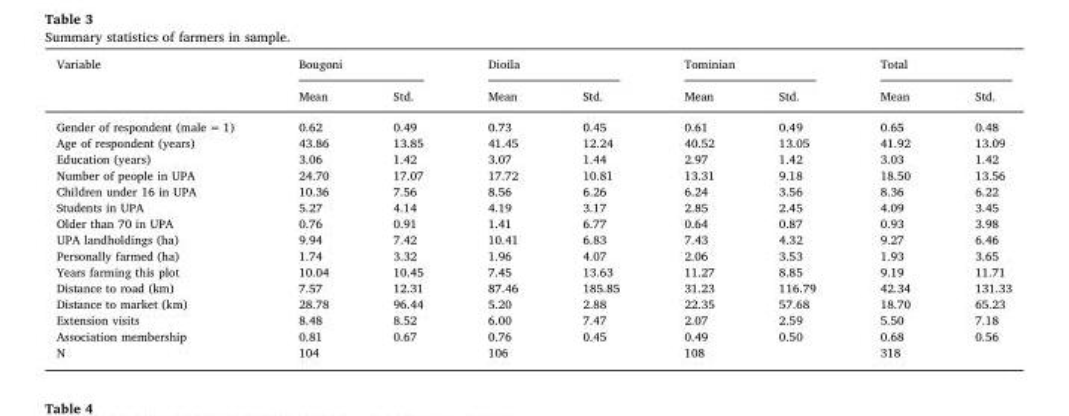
<table><thead><tr><td rowspan="2">Variable</td><td colspan="2">Bougoni</td><td colspan="2">Dioila</td><td colspan="2">Tominian</td><td colspan="2">Total</td></tr><tr><td>Mean</td><td>Std.</td><td>Mean</td><td>Std.</td><td>Mean</td><td>Std.</td><td>Mean</td><td>Std.</td></tr></thead><tbody><tr><td>Gender of respondent (male = 1)</td><td>0.62</td><td>0.49</td><td>0.73</td><td>0.45</td><td>0.61</td><td>0.49</td><td>0.65</td><td>0.48</td></tr><tr><td>Age of respondent (years)</td><td>43.86</td><td>13.85</td><td>41.45</td><td>12.24</td><td>40.52</td><td>13.05</td><td>41.92</td><td>13.09</td></tr><tr><td>Education (years)</td><td>3.06</td><td>1.42</td><td>3.07</td><td>1.44</td><td>2.97</td><td>1.42</td><td>3.03</td><td>1.42</td></tr><tr><td>Number of people in UPA</td><td>24.70</td><td>17.07</td><td>17.72</td><td>10.81</td><td>13.31</td><td>9.18</td><td>18.50</td><td>13.56</td></tr><tr><td>Children under 16 in UPA</td><td>10.36</td><td>7.56</td><td>8.56</td><td>6.26</td><td>6.24</td><td>3.56</td><td>8.36</td><td>6.22</td></tr><tr><td>Students in UPA</td><td>5.27</td><td>4.14</td><td>4.19</td><td>3.17</td><td>2.85</td><td>2.45</td><td>4.09</td><td>3.45</td></tr><tr><td>Older than 70 in UPA</td><td>0.76</td><td>0.91</td><td>1.41</td><td>6.77</td><td>0.64</td><td>0.87</td><td>0.93</td><td>3.98</td></tr><tr><td>UPA landholdings (ha)</td><td>9.94</td><td>7.42</td><td>10.41</td><td>6.83</td><td>7.43</td><td>4.32</td><td>9.27</td><td>6.46</td></tr><tr><td>Personally farmed (ha)</td><td>1.74</td><td>3.32</td><td>1.96</td><td>4.07</td><td>2.06</td><td>3.53</td><td>1.93</td><td>3.65</td></tr><tr><td>Years farming this plot</td><td>10.04</td><td>10.45</td><td>7.45</td><td>13.63</td><td>11.27</td><td>8.85</td><td>9.19</td><td>11.71</td></tr><tr><td>Distance to road (km)</td><td>7.57</td><td>12.31</td><td>87.46</td><td>185.85</td><td>31.23</td><td>116.79</td><td>42.34</td><td>131.33</td></tr><tr><td>Distance to market (km)</td><td>28.78</td><td>96.44</td><td>5.20</td><td>2.88</td><td>22.35</td><td>57.68</td><td>18.70</td><td>65.23</td></tr><tr><td>Extension visits</td><td>8.48</td><td>8.52</td><td>6.00</td><td>7.47</td><td>2.07</td><td>2.59</td><td>5.50</td><td>7.18</td></tr><tr><td>Association membership</td><td>0.81</td><td>0.67</td><td>0.76</td><td>0.45</td><td>0.49</td><td>0.50</td><td>0.68</td><td>0.56</td></tr><tr><td>N</td><td>104</td><td></td><td>106</td><td></td><td>108</td><td></td><td>318</td><td></td></tr></tbody></table>